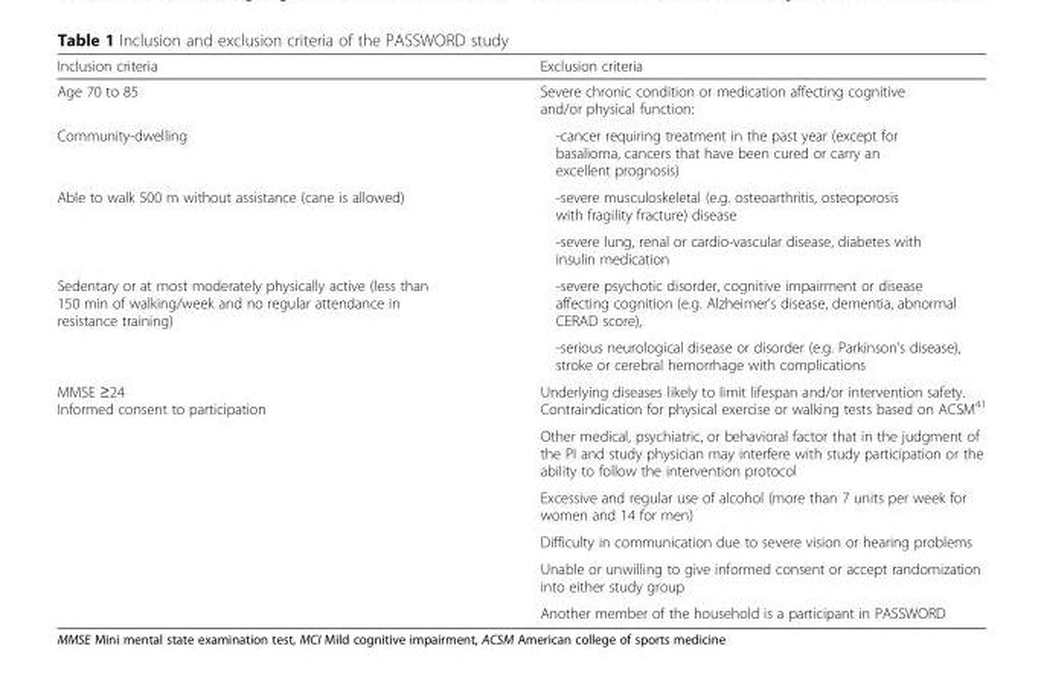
<table><thead><tr><td>Inclusion criteria</td><td>Exclusion criteria</td></tr></thead><tbody><tr><td>Age 70 to 85</td><td>Severe chronic condition or medication affecting cognitive and/or physical function:</td></tr><tr><td>Community-dwelling</td><td>-cancer requiring treatment in the past year (except for basalioma, cancers that have been cured or carry an excellent prognosis)</td></tr><tr><td rowspan="2">Able to walk 500 m without assistance (cane is allowed)</td><td>-severe musculoskeletal (e.g. osteoarthritis, osteoporosis with fragility fracture) disease</td></tr><tr><td>-severe lung, renal or cardio-vascular disease, diabetes with insulin medication</td></tr><tr><td rowspan="2">Sedentary or at most moderately physically active (less than 150 min of walking/week and no regular attendance in resistance training)</td><td>-severe psychotic disorder, cognitive impairment or disease affecting cognition (e.g. Alzheimer’s disease, dementia, abnormal CERAD score),</td></tr><tr><td>-serious neurological disease or disorder (e.g. Parkinson’s disease), stroke or cerebral hemorrhage with complications</td></tr><tr><td rowspan="6">MMSE ≥24 Informed consent to participation</td><td>Underlying diseases likely to limit lifespan and/or intervention safety. Contraindication for physical exercise or walking tests based on ACSM<sup>41</sup></td></tr><tr><td>Other medical, psychiatric, or behavioral factor that in the judgment of the PI and study physician may interfere with study participation or the ability to follow the intervention protocol</td></tr><tr><td>Excessive and regular use of alcohol (more than 7 units per week for women and 14 for men)</td></tr><tr><td>Difficulty in communication due to severe vision or hearing problems</td></tr><tr><td>Unable or unwilling to give informed consent or accept randomization into either study group</td></tr><tr><td>Another member of the household is a participant in PASSWORD</td></tr></tbody></table>